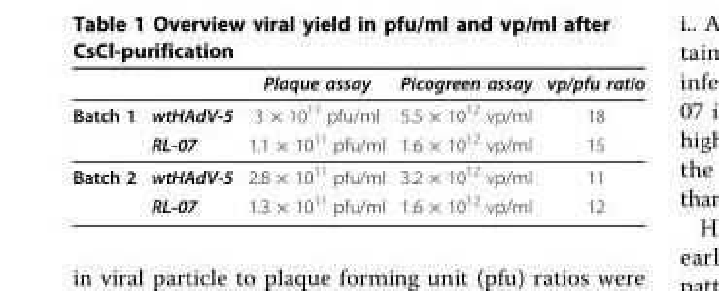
<table><thead><tr><td></td><td></td><td>Plaque assay</td><td>Picogreen assay</td><td>vp/pfu ratio</td></tr></thead><tbody><tr><td rowspan="2">Batch 1</td><td>wtHAdV-5</td><td>3 × 10<sup>11</sup> pfu/ml</td><td>5.5 × 10<sup>12</sup> vp/ml</td><td>18</td></tr><tr><td>RL-07</td><td>1.1 × 10<sup>11</sup> pfu/ml</td><td>1.6 × 10<sup>12</sup> vp/ml</td><td>15</td></tr><tr><td rowspan="2">Batch 2</td><td>wtHAdV-5</td><td>2.8 × 10<sup>11</sup> pfu/ml</td><td>3.2 × 10<sup>12</sup> vp/ml</td><td>11</td></tr><tr><td>RL-07</td><td>1.3 × 10<sup>11</sup> pfu/ml</td><td>1.6 × 10<sup>12</sup> vp/ml</td><td>12</td></tr></tbody></table>